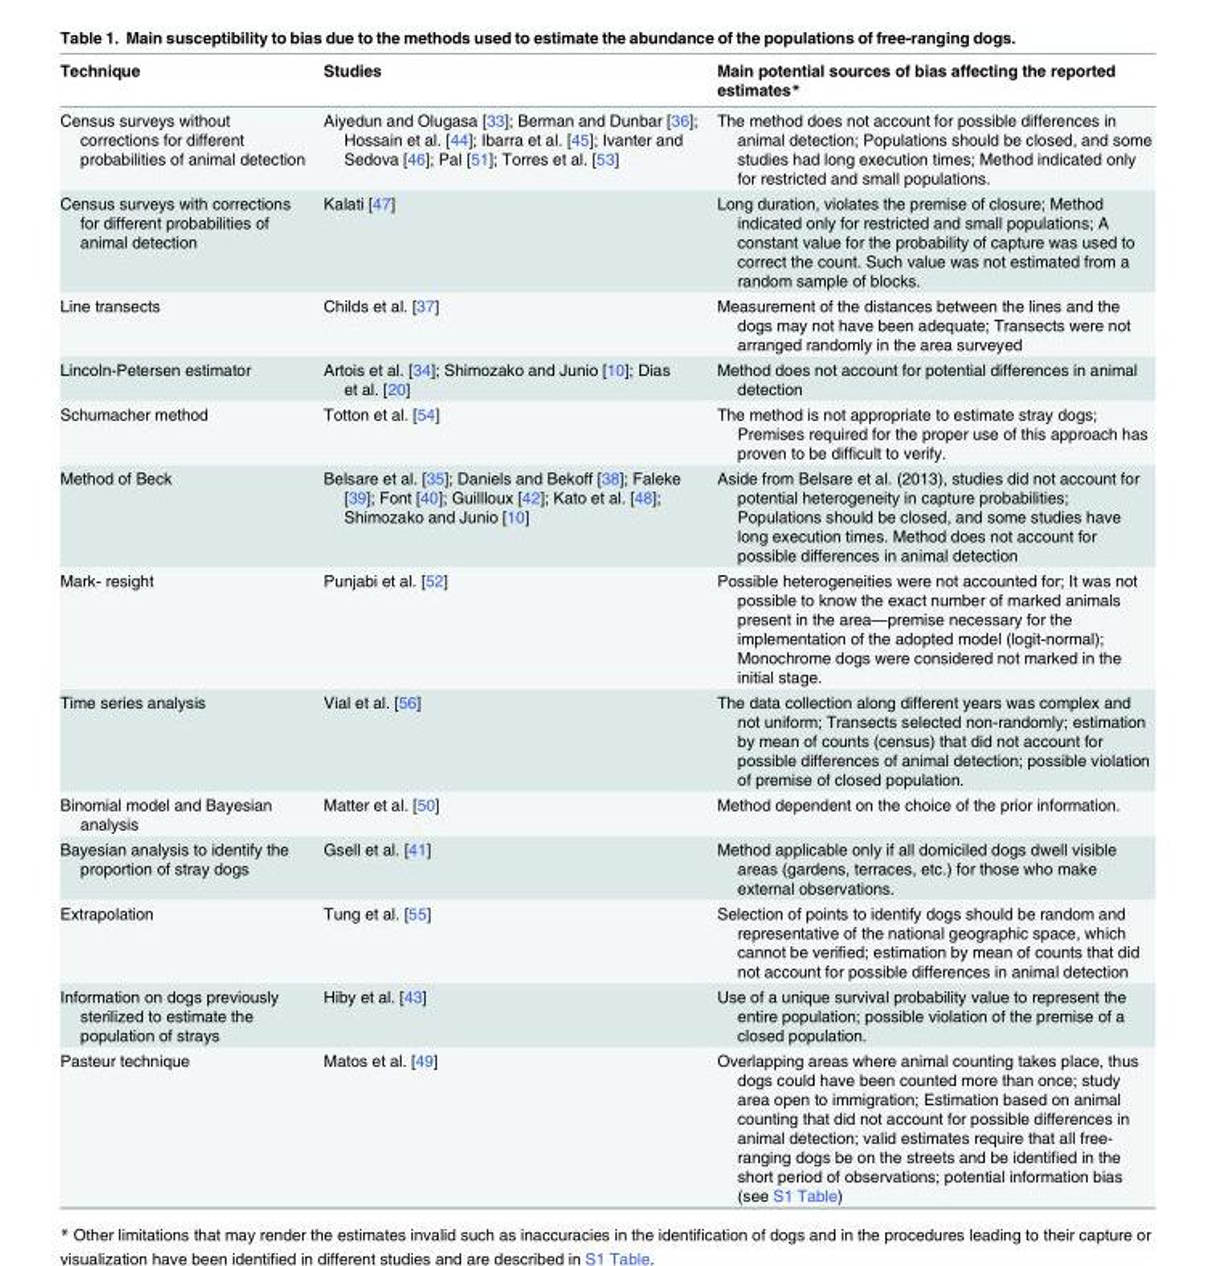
<table><thead><tr><td>Technique</td><td>Studies</td><td>Main potential sources of bias affecting the reported estimates*</td></tr></thead><tbody><tr><td>Census surveys without corrections for different probabilities of animal detection</td><td>Aiyedun and Olugasa [33]; Berman and Dunbar [36]; Hossain et al. [44]; Ibarra et al. [45]; Ivanter and Sedova [46]; Pal [51]; Torres et al. [53]</td><td>The method does not account for possible differences in animal detection; Populations should be closed, and some studies had long execution times; Method indicated only for restricted and small populations.</td></tr><tr><td>Census surveys with corrections for different probabilities of animal detection</td><td>Kalati [47]</td><td>Long duration, violates the premise of closure; Method indicated only for restricted and small populations; A constant value for the probability of capture was used to correct the count. Such value was not estimated from a random sample of blocks.</td></tr><tr><td>Line transects</td><td>Childs et al. [37]</td><td>Measurement of the distances between the lines and the dogs may not have been adequate; Transects were not arranged randomly in the area surveyed</td></tr><tr><td>Lincoln-Petersen estimator</td><td>Artois et al. [34]; Shimozako and Junio [10]; Dias et al. [20]</td><td>Method does not account for potential differences in animal detection</td></tr><tr><td>Schumacher method</td><td>Totton et al. [54]</td><td>The method is not appropriate to estimate stray dogs; Premises required for the proper use of this approach has proven to be difficult to verify.</td></tr><tr><td>Method of Beck</td><td>Belsare et al. [35]; Daniels and Bekoff [38]; Faleke [39]; Font [40]; Guillloux [42]; Kato et al. [48]; Shimozako and Junio [10]</td><td>Aside from Belsare et al. (2013), studies did not account for potential heterogeneity in capture probabilities; Populations should be closed, and some studies have long execution times. Method does not account for possible differences in animal detection</td></tr><tr><td>Mark- resight</td><td>Punjabi et al. [52]</td><td>Possible heterogeneities were not accounted for; It was not possible to know the exact number of marked animals present in the area—premise necessary for the implementation of the adopted model (logit-normal); Monochrome dogs were considered not marked in the initial stage.</td></tr><tr><td>Time series analysis</td><td>Vial et al. [56]</td><td>The data collection along different years was complex and not uniform; Transects selected non-randomly; estimation by mean of counts (census) that did not account for possible differences of animal detection; possible violation of premise of closed population.</td></tr><tr><td>Binomial model and Bayesian analysis</td><td>Matter et al. [50]</td><td>Method dependent on the choice of the prior information.</td></tr><tr><td>Bayesian analysis to identify the proportion of stray dogs</td><td>Gsell et al. [41]</td><td>Method applicable only if all domiciled dogs dwell visible areas (gardens, terraces, etc.) for those who make external observations.</td></tr><tr><td>Extrapolation</td><td>Tung et al. [55]</td><td>Selection of points to identify dogs should be random and representative of the national geographic space, which cannot be verified; estimation by mean of counts that did not account for possible differences in animal detection</td></tr><tr><td>Information on dogs previously sterilized to estimate the population of strays</td><td>Hiby et al. [43]</td><td>Use of a unique survival probability value to represent the entire population; possible violation of the premise of a closed population.</td></tr><tr><td>Pasteur technique</td><td>Matos et al. [49]</td><td>Overlapping areas where animal counting takes place, thus dogs could have been counted more than once; study area open to immigration; Estimation based on animal counting that did not account for possible differences in animal detection; valid estimates require that all free- ranging dogs be on the streets and be identified in the short period of observations; potential information bias (see S1 Table)</td></tr></tbody></table>